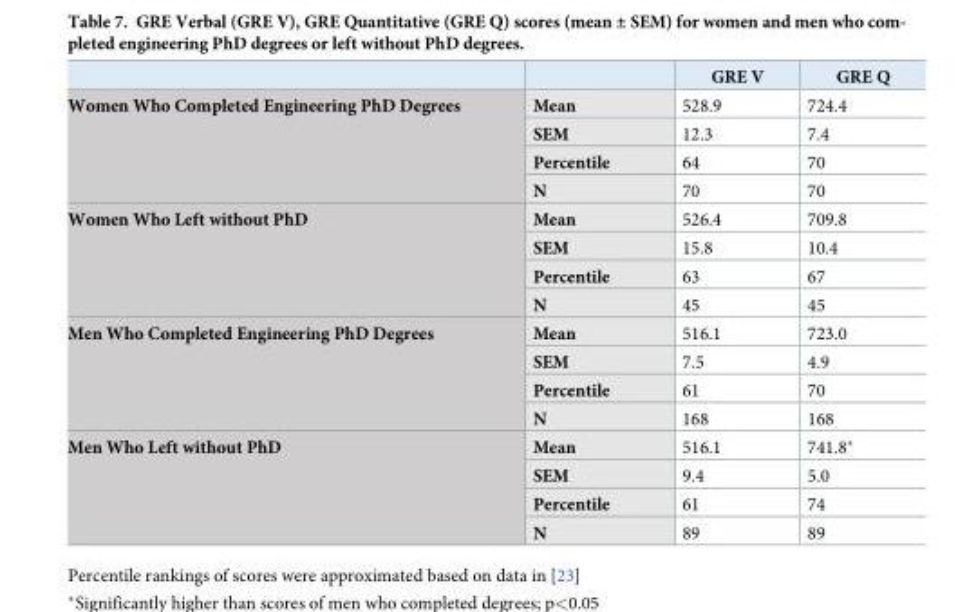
<table><thead><tr><td></td><td></td><td>GRE V</td><td>GRE Q</td></tr></thead><tbody><tr><td rowspan="4">Women Who Completed Engineering PhD Degrees</td><td>Mean</td><td>528.9</td><td>724.4</td></tr><tr><td>SEM</td><td>12.3</td><td>7.4</td></tr><tr><td>Percentile</td><td>64</td><td>70</td></tr><tr><td>N</td><td>70</td><td>70</td></tr><tr><td rowspan="4">Women Who Left without PhD</td><td>Mean</td><td>526.4</td><td>709.8</td></tr><tr><td>SEM</td><td>15.8</td><td>10.4</td></tr><tr><td>Percentile</td><td>63</td><td>67</td></tr><tr><td>N</td><td>45</td><td>45</td></tr><tr><td rowspan="4">Men Who Completed Engineering PhD Degrees</td><td>Mean</td><td>516.1</td><td>723.0</td></tr><tr><td>SEM</td><td>7.5</td><td>4.9</td></tr><tr><td>Percentile</td><td>61</td><td>70</td></tr><tr><td>N</td><td>168</td><td>168</td></tr><tr><td rowspan="4">Men Who Left without PhD</td><td>Mean</td><td>516.1</td><td>741.8*</td></tr><tr><td>SEM</td><td>9.4</td><td>5.0</td></tr><tr><td>Percentile</td><td>61</td><td>74</td></tr><tr><td>N</td><td>89</td><td>89</td></tr></tbody></table>